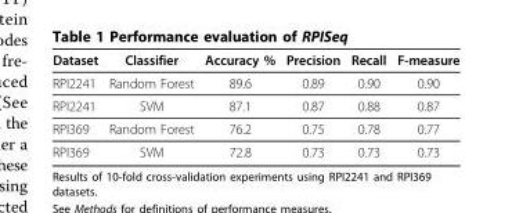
<table><thead><tr><td>Dataset</td><td>Classifier</td><td>Accuracy %</td><td>Precision</td><td>Recall</td><td>F-measure</td></tr></thead><tbody><tr><td>RPI2241</td><td>Random Forest</td><td>89.6</td><td>0.89</td><td>0.90</td><td>0.90</td></tr><tr><td>RPI2241</td><td>SVM</td><td>87.1</td><td>0.87</td><td>0.88</td><td>0.87</td></tr><tr><td>RPI369</td><td>Random Forest</td><td>76.2</td><td>0.75</td><td>0.78</td><td>0.77</td></tr><tr><td>RPI369</td><td>SVM</td><td>72.8</td><td>0.73</td><td>0.73</td><td>0.73</td></tr></tbody></table>